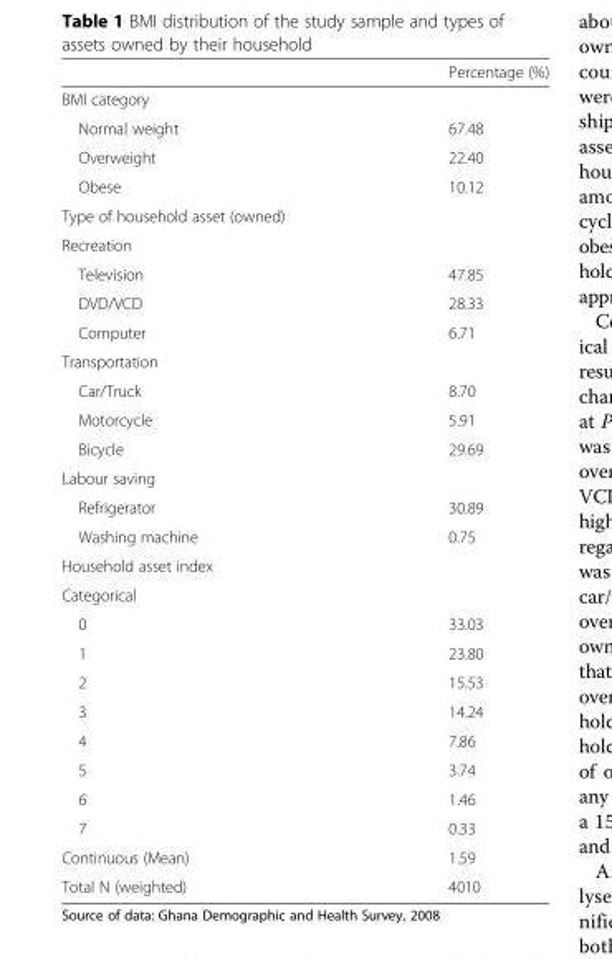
<table><thead><tr><td></td><td>Percentage (%)</td></tr></thead><tbody><tr><td colspan="2">BMI category</td></tr><tr><td>Normal weight</td><td>67.48</td></tr><tr><td>Overweight</td><td>22.40</td></tr><tr><td>Obese</td><td>10.12</td></tr><tr><td colspan="2">Type of household asset (owned)</td></tr><tr><td colspan="2">Recreation</td></tr><tr><td>Television</td><td>47.85</td></tr><tr><td>DVD/VCD</td><td>28.33</td></tr><tr><td>Computer</td><td>6.71</td></tr><tr><td colspan="2">Transportation</td></tr><tr><td>Car/Truck</td><td>8.70</td></tr><tr><td>Motorcycle</td><td>5.91</td></tr><tr><td>Bicycle</td><td>29.69</td></tr><tr><td colspan="2">Labour saving</td></tr><tr><td>Refrigerator</td><td>30.89</td></tr><tr><td>Washing machine</td><td>0.75</td></tr><tr><td colspan="2">Household asset index</td></tr><tr><td colspan="2">Categorical</td></tr><tr><td>0</td><td>33.03</td></tr><tr><td>1</td><td>23.80</td></tr><tr><td>2</td><td>15.53</td></tr><tr><td>3</td><td>14.24</td></tr><tr><td>4</td><td>7.86</td></tr><tr><td>5</td><td>3.74</td></tr><tr><td>6</td><td>1.46</td></tr><tr><td>7</td><td>0.33</td></tr><tr><td>Continuous (Mean)</td><td>1.59</td></tr><tr><td>Total N (weighted)</td><td>4010</td></tr></tbody></table>